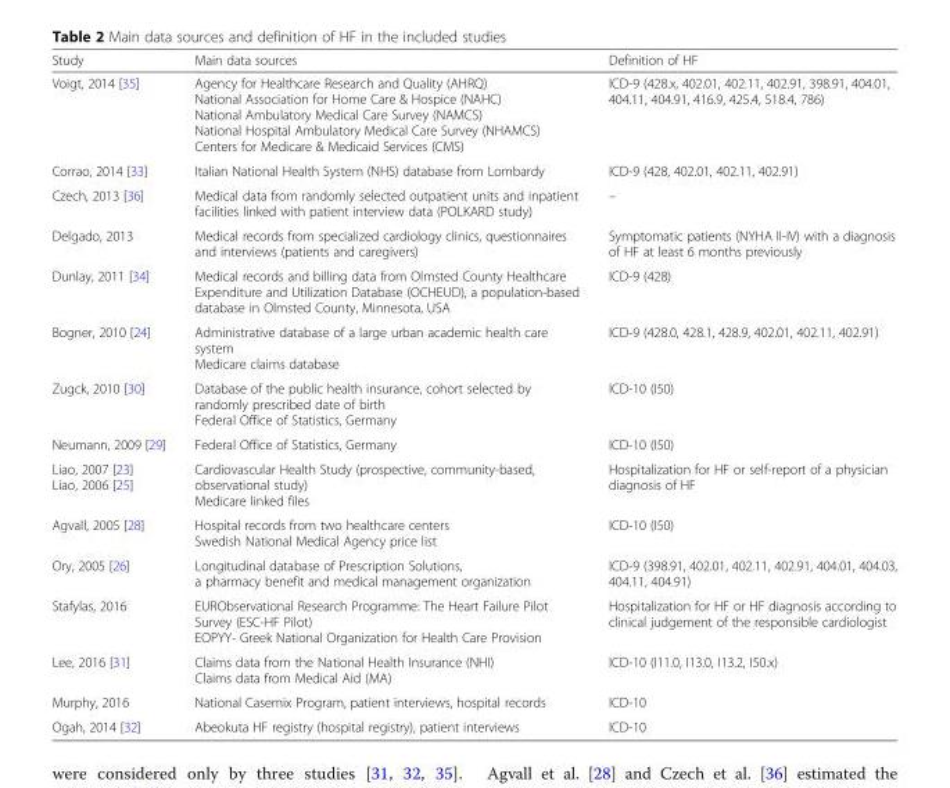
<table><thead><tr><td>Study</td><td>Main data sources</td><td>Definition of HF</td></tr></thead><tbody><tr><td>Voigt, 2014 [35]</td><td>Agency for Healthcare Research and Quality (AHRQ) National Association for Home Care &amp; Hospice (NAHC) National Ambulatory Medical Care Survey (NAMCS) National Hospital Ambulatory Medical Care Survey (NHAMCS) Centers for Medicare &amp; Medicaid Services (CMS)</td><td>ICD-9 (428.x, 402.01, 402.11, 402.91, 398.91, 404.01, 404.11, 404.91, 416.9, 425.4, 518.4, 786)</td></tr><tr><td>Corrao, 2014 [33]</td><td>Italian National Health System (NHS) database from Lombardy</td><td>ICD-9 (428, 402.01, 402.11, 402.91)</td></tr><tr><td>Czech, 2013 [36]</td><td>Medical data from randomly selected outpatient units and inpatient facilities linked with patient interview data (POLKARD study)</td><td>–</td></tr><tr><td>Delgado, 2013</td><td>Medical records from specialized cardiology clinics, questionnaires and interviews (patients and caregivers)</td><td>Symptomatic patients (NYHA II-IV) with a diagnosis of HF at least 6 months previously</td></tr><tr><td>Dunlay, 2011 [34]</td><td>Medical records and billing data from Olmsted County Healthcare Expenditure and Utilization Database (OCHEUD), a population-based database in Olmsted County, Minnesota, USA</td><td>ICD-9 (428)</td></tr><tr><td>Bogner, 2010 [24]</td><td>Administrative database of a large urban academic health care system Medicare claims database</td><td>ICD-9 (428.0, 428.1, 428.9, 402.01, 402.11, 402.91)</td></tr><tr><td>Zugck, 2010 [30]</td><td>Database of the public health insurance, cohort selected by randomly prescribed date of birth Federal Office of Statistics, Germany</td><td>ICD-10 (I50)</td></tr><tr><td>Neumann, 2009 [29]</td><td>Federal Office of Statistics, Germany</td><td>ICD-10 (I50)</td></tr><tr><td>Liao, 2007 [23] Liao, 2006 [25]</td><td>Cardiovascular Health Study (prospective, community-based, observational study) Medicare linked files</td><td>Hospitalization for HF or self-report of a physician diagnosis of HF</td></tr><tr><td>Agvall, 2005 [28]</td><td>Hospital records from two healthcare centers Swedish National Medical Agency price list</td><td>ICD-10 (I50)</td></tr><tr><td>Ory, 2005 [26]</td><td>Longitudinal database of Prescription Solutions, a pharmacy benefit and medical management organization</td><td>ICD-9 (398.91, 402.01, 402.11, 402.91, 404.01, 404.03, 404.11, 404.91)</td></tr><tr><td>Stafylas, 2016</td><td>EURObservational Research Programme: The Heart Failure Pilot Survey (ESC-HF Pilot) EOPYY- Greek National Organization for Health Care Provision</td><td>Hospitalization for HF or HF diagnosis according to clinical judgement of the responsible cardiologist</td></tr><tr><td>Lee, 2016 [31]</td><td>Claims data from the National Health Insurance (NHI) Claims data from Medical Aid (MA)</td><td>ICD-10 (I11.0, I13.0, I13.2, I50.x)</td></tr><tr><td>Murphy, 2016</td><td>National Casemix Program, patient interviews, hospital records</td><td>ICD-10</td></tr><tr><td>Ogah, 2014 [32]</td><td>Abeokuta HF registry (hospital registry), patient interviews</td><td>ICD-10</td></tr></tbody></table>